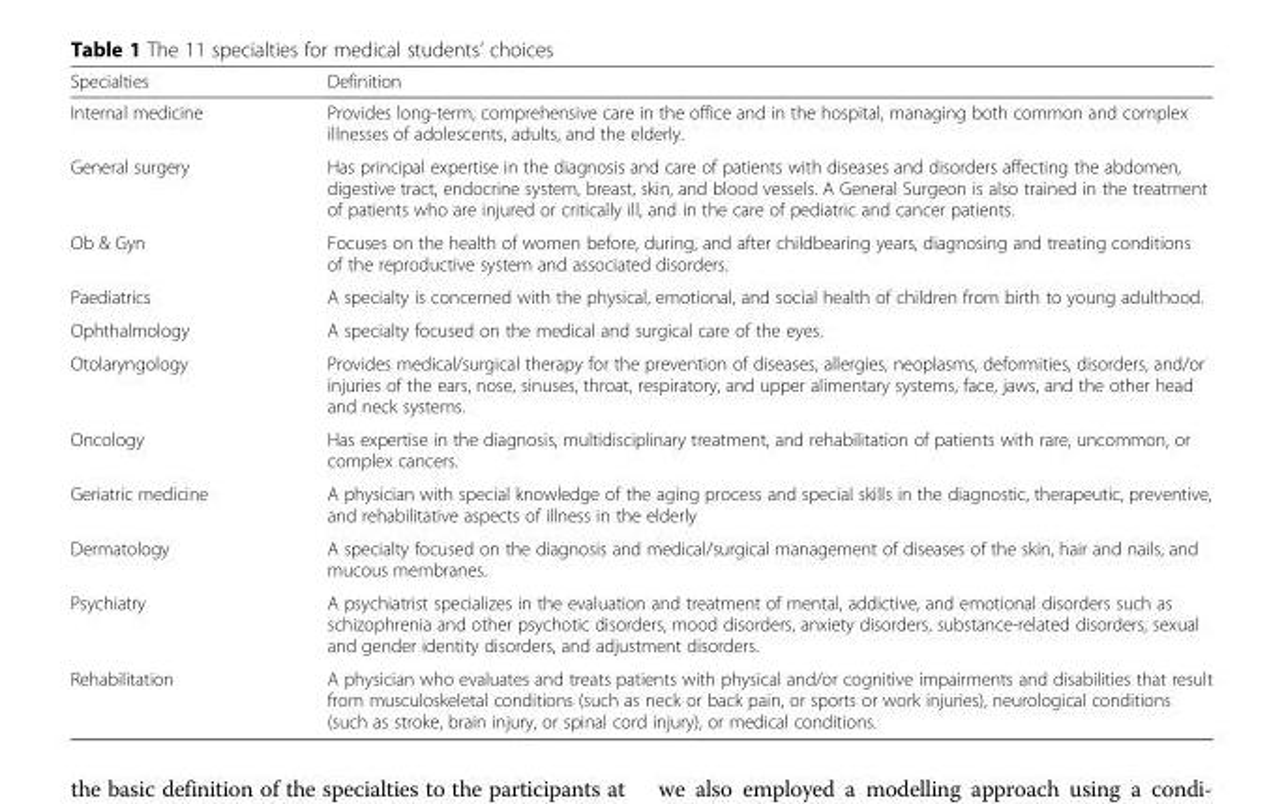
<table><thead><tr><td>Specialties</td><td>Definition</td></tr></thead><tbody><tr><td>Internal medicine</td><td>Provides long-term, comprehensive care in the office and in the hospital, managing both common and complex illnesses of adolescents, adults, and the elderly.</td></tr><tr><td>General surgery</td><td>Has principal expertise in the diagnosis and care of patients with diseases and disorders affecting the abdomen, digestive tract, endocrine system, breast, skin, and blood vessels. A General Surgeon is also trained in the treatment of patients who are injured or critically ill, and in the care of pediatric and cancer patients.</td></tr><tr><td>Ob &amp; Gyn</td><td>Focuses on the health of women before, during, and after childbearing years, diagnosing and treating conditions of the reproductive system and associated disorders.</td></tr><tr><td>Paediatrics</td><td>A specialty is concerned with the physical, emotional, and social health of children from birth to young adulthood.</td></tr><tr><td>Ophthalmology</td><td>A specialty focused on the medical and surgical care of the eyes.</td></tr><tr><td>Otolaryngology</td><td>Provides medical/surgical therapy for the prevention of diseases, allergies, neoplasms, deformities, disorders, and/or injuries of the ears, nose, sinuses, throat, respiratory, and upper alimentary systems, face, jaws, and the other head and neck systems.</td></tr><tr><td>Oncology</td><td>Has expertise in the diagnosis, multidisciplinary treatment, and rehabilitation of patients with rare, uncommon, or complex cancers.</td></tr><tr><td>Geriatric medicine</td><td>A physician with special knowledge of the aging process and special skills in the diagnostic, therapeutic, preventive, and rehabilitative aspects of illness in the elderly</td></tr><tr><td>Dermatology</td><td>A specialty focused on the diagnosis and medical/surgical management of diseases of the skin, hair and nails, and mucous membranes.</td></tr><tr><td>Psychiatry</td><td>A psychiatrist specializes in the evaluation and treatment of mental, addictive, and emotional disorders such as schizophrenia and other psychotic disorders, mood disorders, anxiety disorders, substance-related disorders, sexual and gender identity disorders, and adjustment disorders.</td></tr><tr><td>Rehabilitation</td><td>A physician who evaluates and treats patients with physical and/or cognitive impairments and disabilities that result from musculoskeletal conditions (such as neck or back pain, or sports or work injuries), neurological conditions (such as stroke, brain injury, or spinal cord injury), or medical conditions.</td></tr></tbody></table>